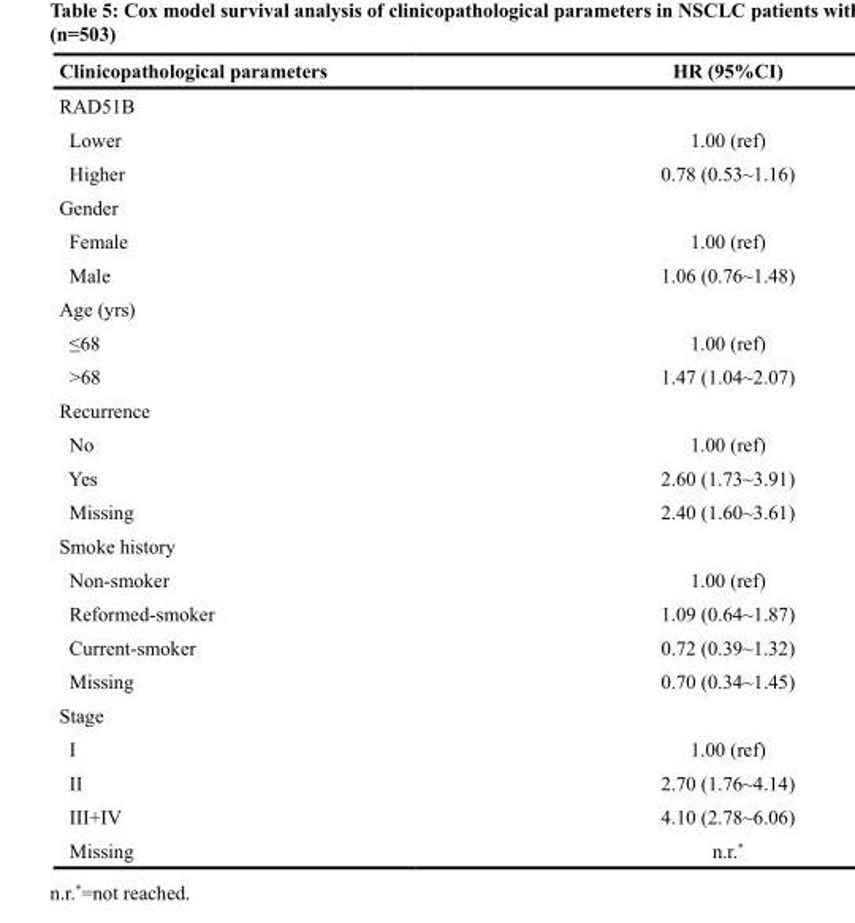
<table><thead><tr><td>Clinicopathological parameters</td><td>HR (95%CI)</td></tr></thead><tbody><tr><td colspan="2">RAD51B</td></tr><tr><td>Lower</td><td>1.00 (ref)</td></tr><tr><td>Higher</td><td>0.78 (0.53~1.16)</td></tr><tr><td colspan="2">Gender</td></tr><tr><td>Female</td><td>1.00 (ref)</td></tr><tr><td>Male</td><td>1.06 (0.76~1.48)</td></tr><tr><td colspan="2">Age (yrs)</td></tr><tr><td>≤68</td><td>1.00 (ref)</td></tr><tr><td>&gt;68</td><td>1.47 (1.04~2.07)</td></tr><tr><td colspan="2">Recurrence</td></tr><tr><td>No</td><td>1.00 (ref)</td></tr><tr><td>Yes</td><td>2.60 (1.73~3.91)</td></tr><tr><td>Missing</td><td>2.40 (1.60~3.61)</td></tr><tr><td colspan="2">Smoke history</td></tr><tr><td>Non-smoker</td><td>1.00 (ref)</td></tr><tr><td>Reformed-smoker</td><td>1.09 (0.64~1.87)</td></tr><tr><td>Current-smoker</td><td>0.72 (0.39~1.32)</td></tr><tr><td>Missing</td><td>0.70 (0.34~1.45)</td></tr><tr><td colspan="2">Stage</td></tr><tr><td>I</td><td>1.00 (ref)</td></tr><tr><td>II</td><td>2.70 (1.76~4.14)</td></tr><tr><td>III+IV</td><td>4.10 (2.78~6.06)</td></tr><tr><td>Missing</td><td>n.r.*</td></tr></tbody></table>